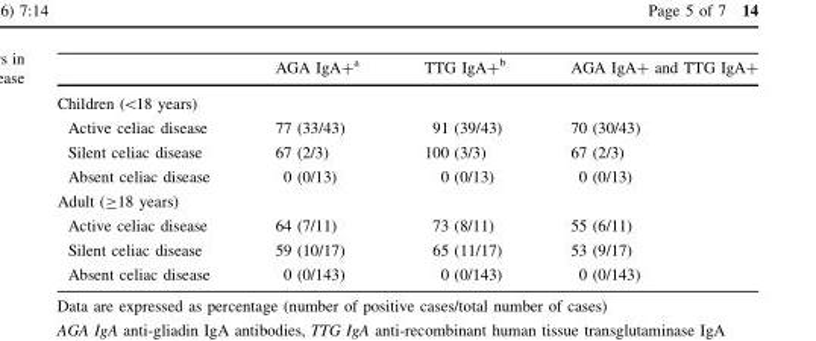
<table><thead><tr><td></td><td>AGA IgA+<sup>a</sup></td><td>TTG IgA+<sup>b</sup></td><td>AGA IgA+ and TTG IgA+</td></tr></thead><tbody><tr><td colspan="4">Children (&lt;18 years)</td></tr><tr><td>Active celiac disease</td><td>77 (33/43)</td><td>91 (39/43)</td><td>70 (30/43)</td></tr><tr><td>Silent celiac disease</td><td>67 (2/3)</td><td>100 (3/3)</td><td>67 (2/3)</td></tr><tr><td>Absent celiac disease</td><td>0 (0/13)</td><td>0 (0/13)</td><td>0 (0/13)</td></tr><tr><td colspan="4">Adult (≥18 years)</td></tr><tr><td>Active celiac disease</td><td>64 (7/11)</td><td>73 (8/11)</td><td>55 (6/11)</td></tr><tr><td>Silent celiac disease</td><td>59 (10/17)</td><td>65 (11/17)</td><td>53 (9/17)</td></tr><tr><td>Absent celiac disease</td><td>0 (0/143)</td><td>0 (0/143)</td><td>0 (0/143)</td></tr></tbody></table>